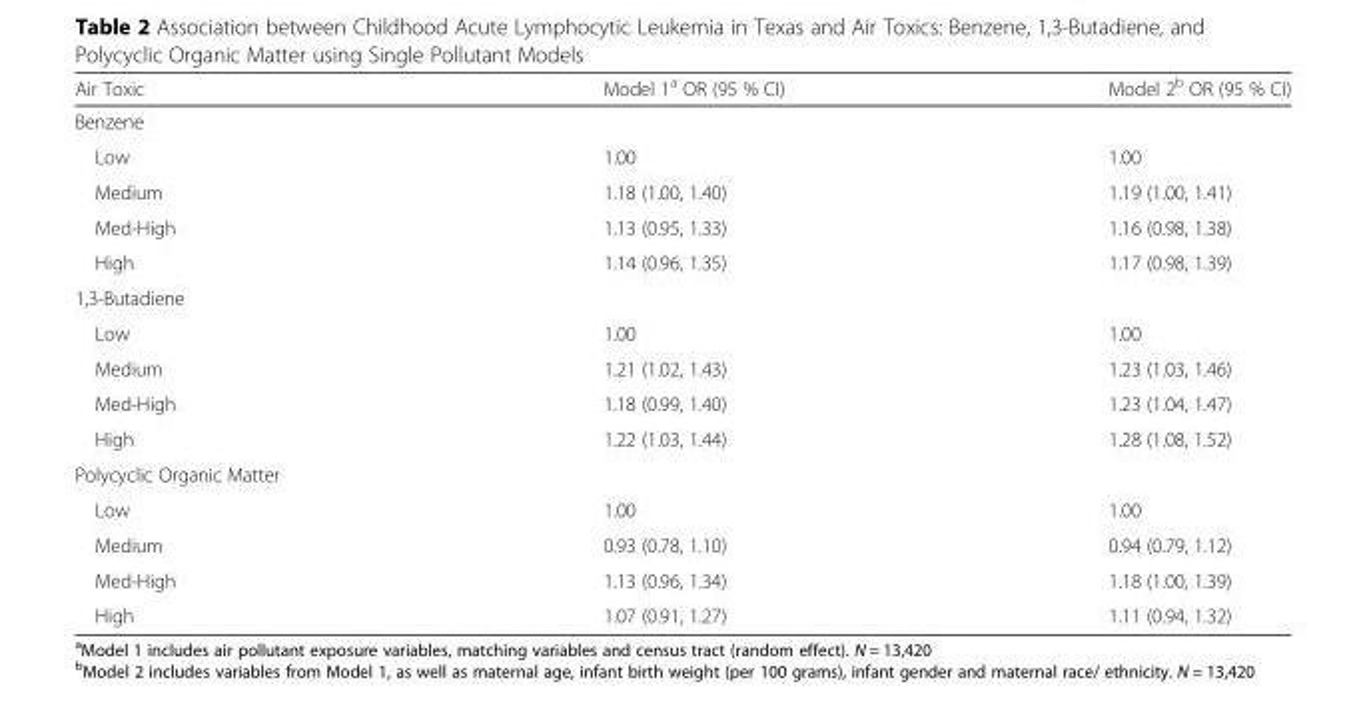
<table><thead><tr><td>Air Toxic</td><td>Model 1<sup>a</sup> OR (95 % CI)</td><td>Model 2<sup>b</sup> OR (95 % CI)</td></tr></thead><tbody><tr><td colspan="3">Benzene</td></tr><tr><td>Low</td><td>1.00</td><td>1.00</td></tr><tr><td>Medium</td><td>1.18 (1.00, 1.40)</td><td>1.19 (1.00, 1.41)</td></tr><tr><td>Med-High</td><td>1.13 (0.95, 1.33)</td><td>1.16 (0.98, 1.38)</td></tr><tr><td>High</td><td>1.14 (0.96, 1.35)</td><td>1.17 (0.98, 1.39)</td></tr><tr><td colspan="3">1,3-Butadiene</td></tr><tr><td>Low</td><td>1.00</td><td>1.00</td></tr><tr><td>Medium</td><td>1.21 (1.02, 1.43)</td><td>1.23 (1.03, 1.46)</td></tr><tr><td>Med-High</td><td>1.18 (0.99, 1.40)</td><td>1.23 (1.04, 1.47)</td></tr><tr><td>High</td><td>1.22 (1.03, 1.44)</td><td>1.28 (1.08, 1.52)</td></tr><tr><td colspan="3">Polycyclic Organic Matter</td></tr><tr><td>Low</td><td>1.00</td><td>1.00</td></tr><tr><td>Medium</td><td>0.93 (0.78, 1.10)</td><td>0.94 (0.79, 1.12)</td></tr><tr><td>Med-High</td><td>1.13 (0.96, 1.34)</td><td>1.18 (1.00, 1.39)</td></tr><tr><td>High</td><td>1.07 (0.91, 1.27)</td><td>1.11 (0.94, 1.32)</td></tr></tbody></table>